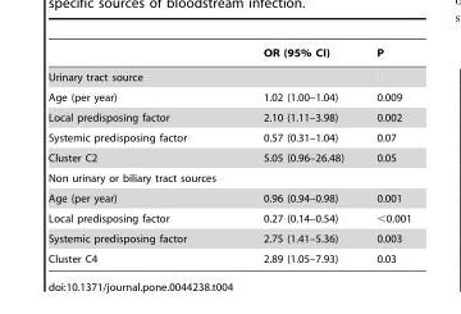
<table><thead><tr><td></td><td>OR (95% CI)</td><td>P</td></tr></thead><tbody><tr><td colspan="3">Urinary tract source</td></tr><tr><td>Age (per year)</td><td>1.02 (1.00–1.04)</td><td>0.009</td></tr><tr><td>Local predisposing factor</td><td>2.10 (1.11–3.98)</td><td>0.002</td></tr><tr><td>Systemic predisposing factor</td><td>0.57 (0.31–1.04)</td><td>0.07</td></tr><tr><td>Cluster C2</td><td>5.05 (0.96–26.48)</td><td>0.05</td></tr><tr><td colspan="3">Non urinary or biliary tract sources</td></tr><tr><td>Age (per year)</td><td>0.96 (0.94–0.98)</td><td>0.001</td></tr><tr><td>Local predisposing factor</td><td>0.27 (0.14–0.54)</td><td>&lt;0.001</td></tr><tr><td>Systemic predisposing factor</td><td>2.75 (1.41–5.36)</td><td>0.003</td></tr><tr><td>Cluster C4</td><td>2.89 (1.05–7.93)</td><td>0.03</td></tr></tbody></table>